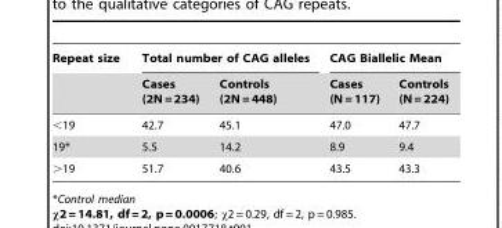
<table><thead><tr><td rowspan="2">Repeat size</td><td colspan="2">Total number of CAG alleles</td><td colspan="2">CAG Biallelic Mean</td></tr><tr><td>Cases (2N = 234)</td><td>Controls (2N = 448)</td><td>Cases (N = 117)</td><td>Controls (N = 224)</td></tr></thead><tbody><tr><td>&lt;19</td><td>42.7</td><td>45.1</td><td>47.0</td><td>47.7</td></tr><tr><td>19*</td><td>5.5</td><td>14.2</td><td>8.9</td><td>9.4</td></tr><tr><td>&gt;19</td><td>51.7</td><td>40.6</td><td>43.5</td><td>43.3</td></tr></tbody></table>